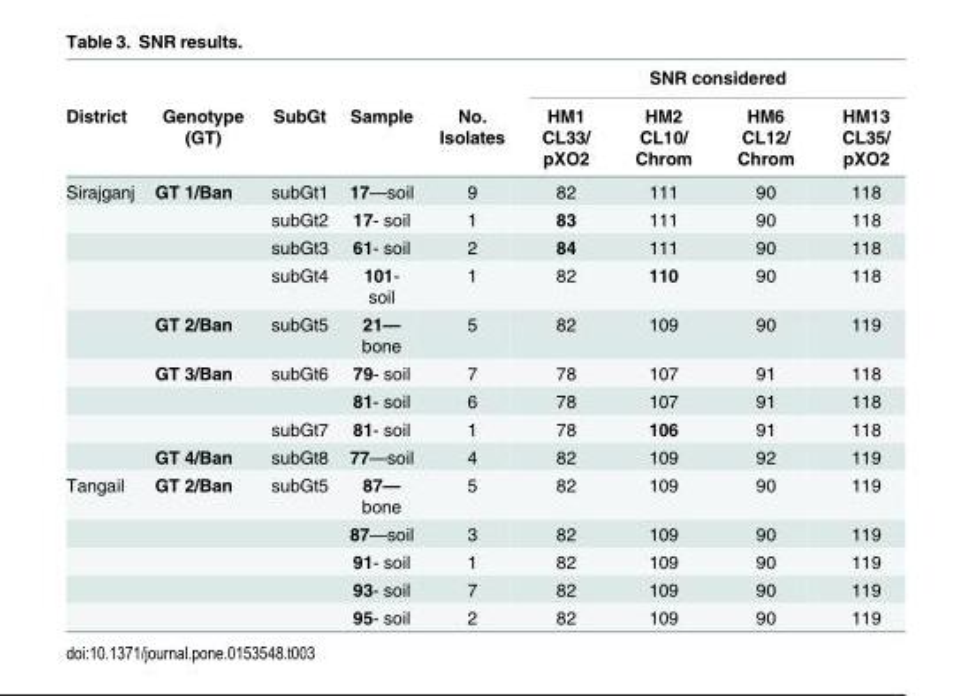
<table><thead><tr><td rowspan="2">District</td><td rowspan="2">Genotype (GT)</td><td rowspan="2">SubGt</td><td rowspan="2">Sample</td><td rowspan="2">No. Isolates</td><td colspan="4">SNR considered</td></tr><tr><td>HM1 CL33/ pXO2</td><td>HM2 CL10/ Chrom</td><td>HM6 CL12/ Chrom</td><td>HM13 CL35/ pXO2</td></tr></thead><tbody><tr><td rowspan="9">Sirajganj</td><td>GT 1/Ban</td><td>subGt1</td><td>17—soil</td><td>9</td><td>82</td><td>111</td><td>90</td><td>118</td></tr><tr><td></td><td>subGt2</td><td>17- soil</td><td>1</td><td>83</td><td>111</td><td>90</td><td>118</td></tr><tr><td></td><td>subGt3</td><td>61- soil</td><td>2</td><td>84</td><td>111</td><td>90</td><td>118</td></tr><tr><td></td><td>subGt4</td><td>101- soil</td><td>1</td><td>82</td><td>110</td><td>90</td><td>118</td></tr><tr><td>GT 2/Ban</td><td>subGt5</td><td>21— bone</td><td>5</td><td>82</td><td>109</td><td>90</td><td>119</td></tr><tr><td>GT 3/Ban</td><td>subGt6</td><td>79- soil</td><td>7</td><td>78</td><td>107</td><td>91</td><td>118</td></tr><tr><td></td><td></td><td>81- soil</td><td>6</td><td>78</td><td>107</td><td>91</td><td>118</td></tr><tr><td></td><td>subGt7</td><td>81- soil</td><td>1</td><td>78</td><td>106</td><td>91</td><td>118</td></tr><tr><td>GT 4/Ban</td><td>subGt8</td><td>77—soil</td><td>4</td><td>82</td><td>109</td><td>92</td><td>119</td></tr><tr><td rowspan="5">Tangail</td><td>GT 2/Ban</td><td>subGt5</td><td>87— bone</td><td>5</td><td>82</td><td>109</td><td>90</td><td>119</td></tr><tr><td></td><td></td><td>87—soil</td><td>3</td><td>82</td><td>109</td><td>90</td><td>119</td></tr><tr><td></td><td></td><td>91- soil</td><td>1</td><td>82</td><td>109</td><td>90</td><td>119</td></tr><tr><td></td><td></td><td>93- soil</td><td>7</td><td>82</td><td>109</td><td>90</td><td>119</td></tr><tr><td></td><td></td><td>95- soil</td><td>2</td><td>82</td><td>109</td><td>90</td><td>119</td></tr></tbody></table>